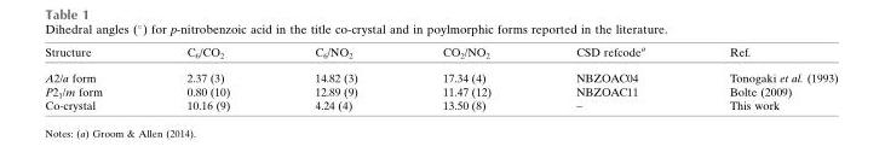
<table><thead><tr><td>Structure</td><td>C<sub>6</sub>/CO<sub>2</sub></td><td>C<sub>6</sub>/NO<sub>2</sub></td><td>CO<sub>2</sub>/NO<sub>2</sub></td><td>CSD refcode<sup>a</sup></td><td>Ref.</td></tr></thead><tbody><tr><td>A2/a form</td><td>2.37 (3)</td><td>14.82 (3)</td><td>17.34 (4)</td><td>NBZOAC04</td><td>Tonogaki et al. (1993)</td></tr><tr><td>P2<sub>1</sub>/m form</td><td>0.80 (10)</td><td>12.89 (9)</td><td>11.47 (12)</td><td>NBZOAC11</td><td>Bolte (2009)</td></tr><tr><td>Co-crystal</td><td>10.16 (9)</td><td>4.24 (4)</td><td>13.50 (8)</td><td>–</td><td>This work</td></tr></tbody></table>